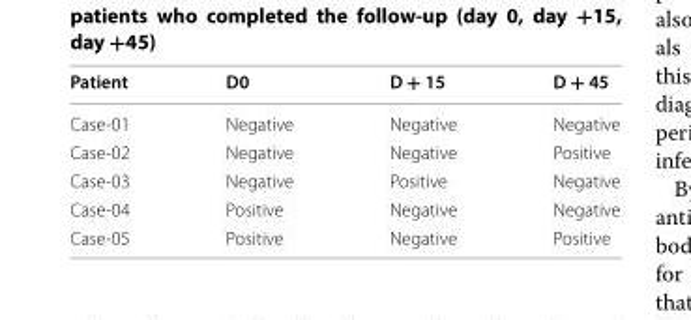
<table><thead><tr><td>Patient</td><td>D0</td><td>D + 15</td><td>D + 45</td></tr></thead><tbody><tr><td>Case‑01</td><td>Negative</td><td>Negative</td><td>Negative</td></tr><tr><td>Case‑02</td><td>Negative</td><td>Negative</td><td>Positive</td></tr><tr><td>Case‑03</td><td>Negative</td><td>Positive</td><td>Negative</td></tr><tr><td>Case‑04</td><td>Positive</td><td>Negative</td><td>Negative</td></tr><tr><td>Case‑05</td><td>Positive</td><td>Negative</td><td>Positive</td></tr></tbody></table>